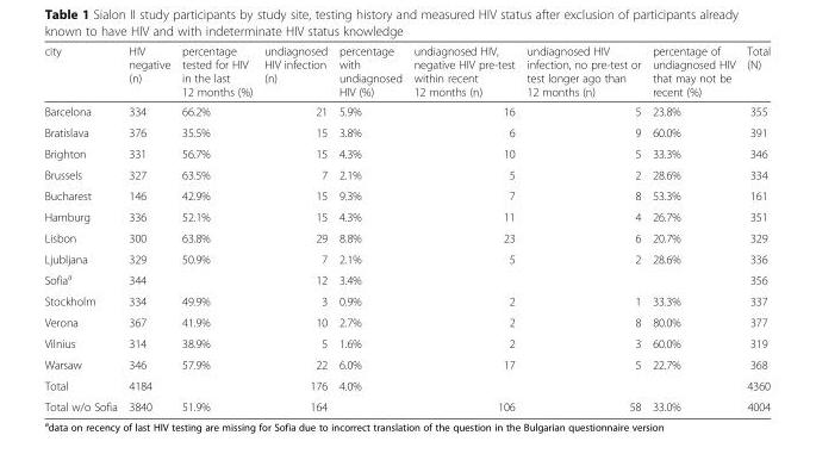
<table><thead><tr><td>city</td><td>HIV negative (n)</td><td>percentage tested for HIV in the last 12 months (%)</td><td>undiagnosed HIV infection (n)</td><td>percentage with undiagnosed HIV (%)</td><td>undiagnosed HIV, negative HIV pre-test within recent 12 months (n)</td><td>undiagnosed HIV infection, no pre-test or test longer ago than 12 months (n)</td><td>percentage of undiagnosed HIV that may not be recent (%)</td><td>Total (N)</td></tr></thead><tbody><tr><td>Barcelona</td><td>334</td><td>66.2%</td><td>21</td><td>5.9%</td><td>16</td><td>5</td><td>23.8%</td><td>355</td></tr><tr><td>Bratislava</td><td>376</td><td>35.5%</td><td>15</td><td>3.8%</td><td>6</td><td>9</td><td>60.0%</td><td>391</td></tr><tr><td>Brighton</td><td>331</td><td>56.7%</td><td>15</td><td>4.3%</td><td>10</td><td>5</td><td>33.3%</td><td>346</td></tr><tr><td>Brussels</td><td>327</td><td>63.5%</td><td>7</td><td>2.1%</td><td>5</td><td>2</td><td>28.6%</td><td>334</td></tr><tr><td>Bucharest</td><td>146</td><td>42.9%</td><td>15</td><td>9.3%</td><td>7</td><td>8</td><td>53.3%</td><td>161</td></tr><tr><td>Hamburg</td><td>336</td><td>52.1%</td><td>15</td><td>4.3%</td><td>11</td><td>4</td><td>26.7%</td><td>351</td></tr><tr><td>Lisbon</td><td>300</td><td>63.8%</td><td>29</td><td>8.8%</td><td>23</td><td>6</td><td>20.7%</td><td>329</td></tr><tr><td>Ljubljana</td><td>329</td><td>50.9%</td><td>7</td><td>2.1%</td><td>5</td><td>2</td><td>28.6%</td><td>336</td></tr><tr><td>Sofia<sup>a</sup></td><td>344</td><td></td><td>12</td><td>3.4%</td><td></td><td></td><td></td><td>356</td></tr><tr><td>Stockholm</td><td>334</td><td>49.9%</td><td>3</td><td>0.9%</td><td>2</td><td>1</td><td>33.3%</td><td>337</td></tr><tr><td>Verona</td><td>367</td><td>41.9%</td><td>10</td><td>2.7%</td><td>2</td><td>8</td><td>80.0%</td><td>377</td></tr><tr><td>Vilnius</td><td>314</td><td>38.9%</td><td>5</td><td>1.6%</td><td>2</td><td>3</td><td>60.0%</td><td>319</td></tr><tr><td>Warsaw</td><td>346</td><td>57.9%</td><td>22</td><td>6.0%</td><td>17</td><td>5</td><td>22.7%</td><td>368</td></tr><tr><td>Total</td><td>4184</td><td></td><td>176</td><td>4.0%</td><td></td><td></td><td></td><td>4360</td></tr><tr><td>Total w/o Sofia</td><td>3840</td><td>51.9%</td><td>164</td><td></td><td>106</td><td>58</td><td>33.0%</td><td>4004</td></tr></tbody></table>